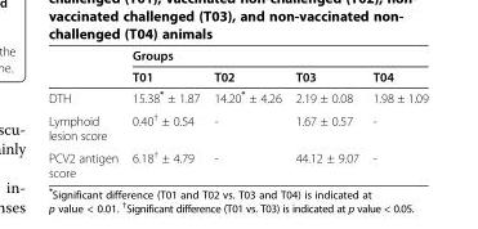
<table><thead><tr><td rowspan="2"></td><td colspan="4">Groups</td></tr><tr><td>T01</td><td>T02</td><td>T03</td><td>T04</td></tr></thead><tbody><tr><td>DTH</td><td>15.38* ± 1.87</td><td>14.20* ± 4.26</td><td>2.19 ± 0.08</td><td>1.98 ± 1.09</td></tr><tr><td>Lymphoid lesion score</td><td>0.40<sup>†</sup> ± 0.54</td><td>-</td><td>1.67 ± 0.57</td><td>-</td></tr><tr><td>PCV2 antigen score</td><td>6.18<sup>†</sup> ± 4.79</td><td>-</td><td>44.12 ± 9.07</td><td>-</td></tr></tbody></table>